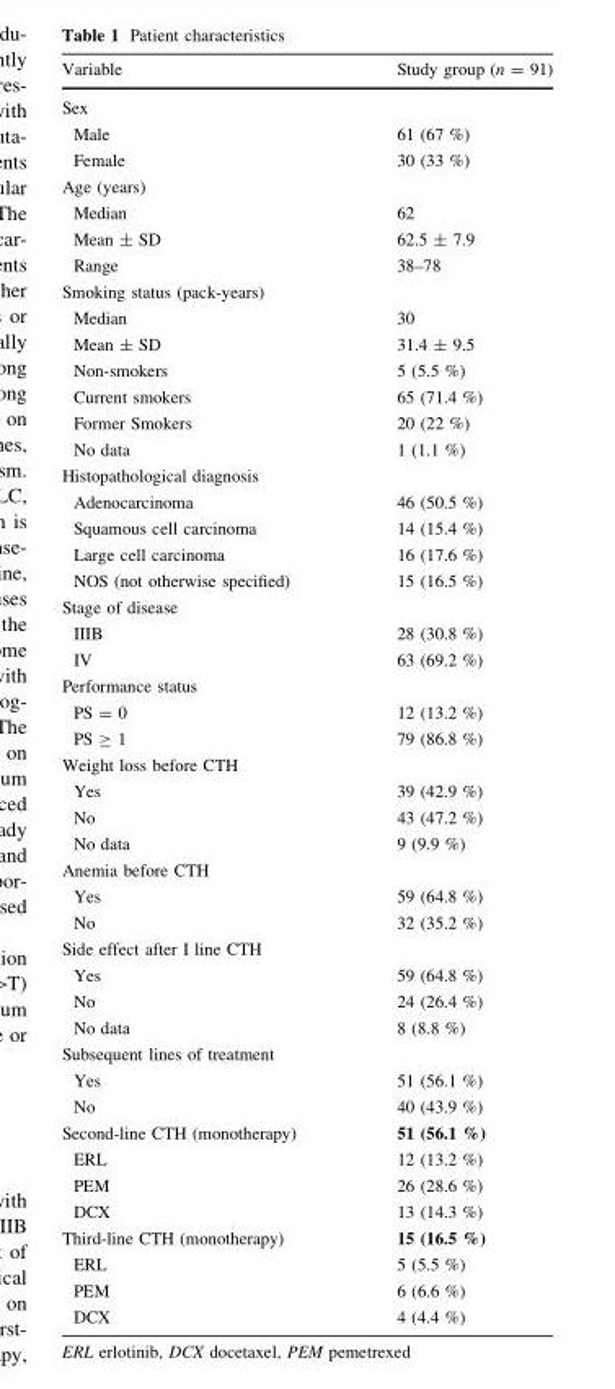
<table><thead><tr><td>Variable</td><td>Study group (n = 91)</td></tr></thead><tbody><tr><td colspan="2">Sex</td></tr><tr><td>Male</td><td>61 (67 %)</td></tr><tr><td>Female</td><td>30 (33 %)</td></tr><tr><td colspan="2">Age (years)</td></tr><tr><td>Median</td><td>62</td></tr><tr><td>Mean ± SD</td><td>62.5 ± 7.9</td></tr><tr><td>Range</td><td>38–78</td></tr><tr><td colspan="2">Smoking status (pack-years)</td></tr><tr><td>Median</td><td>30</td></tr><tr><td>Mean ± SD</td><td>31.4 ± 9.5</td></tr><tr><td>Non-smokers</td><td>5 (5.5 %)</td></tr><tr><td>Current smokers</td><td>65 (71.4 %)</td></tr><tr><td>Former Smokers</td><td>20 (22 %)</td></tr><tr><td>No data</td><td>1 (1.1 %)</td></tr><tr><td colspan="2">Histopathological diagnosis</td></tr><tr><td>Adenocarcinoma</td><td>46 (50.5 %)</td></tr><tr><td>Squamous cell carcinoma</td><td>14 (15.4 %)</td></tr><tr><td>Large cell carcinoma</td><td>16 (17.6 %)</td></tr><tr><td>NOS (not otherwise specified)</td><td>15 (16.5 %)</td></tr><tr><td colspan="2">Stage of disease</td></tr><tr><td>IIIB</td><td>28 (30.8 %)</td></tr><tr><td>IV</td><td>63 (69.2 %)</td></tr><tr><td colspan="2">Performance status</td></tr><tr><td>PS = 0</td><td>12 (13.2 %)</td></tr><tr><td>PS ≥ 1</td><td>79 (86.8 %)</td></tr><tr><td colspan="2">Weight loss before CTH</td></tr><tr><td>Yes</td><td>39 (42.9 %)</td></tr><tr><td>No</td><td>43 (47.2 %)</td></tr><tr><td>No data</td><td>9 (9.9 %)</td></tr><tr><td colspan="2">Anemia before CTH</td></tr><tr><td>Yes</td><td>59 (64.8 %)</td></tr><tr><td>No</td><td>32 (35.2 %)</td></tr><tr><td colspan="2">Side effect after I line CTH</td></tr><tr><td>Yes</td><td>59 (64.8 %)</td></tr><tr><td>No</td><td>24 (26.4 %)</td></tr><tr><td>No data</td><td>8 (8.8 %)</td></tr><tr><td colspan="2">Subsequent lines of treatment</td></tr><tr><td>Yes</td><td>51 (56.1 %)</td></tr><tr><td>No</td><td>40 (43.9 %)</td></tr><tr><td>Second-line CTH (monotherapy)</td><td>51 (56.1 %)</td></tr><tr><td>ERL</td><td>12 (13.2 %)</td></tr><tr><td>PEM</td><td>26 (28.6 %)</td></tr><tr><td>DCX</td><td>13 (14.3 %)</td></tr><tr><td>Third-line CTH (monotherapy)</td><td>15 (16.5 %)</td></tr><tr><td>ERL</td><td>5 (5.5 %)</td></tr><tr><td>PEM</td><td>6 (6.6 %)</td></tr><tr><td>DCX</td><td>4 (4.4 %)</td></tr></tbody></table>